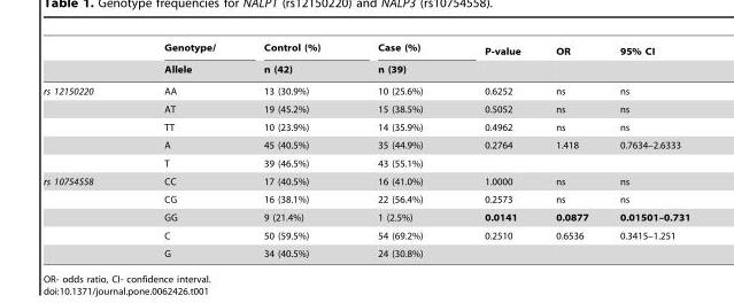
<table><thead><tr><td rowspan="2"></td><td rowspan="2">Genotype/ Allele</td><td rowspan="2">Control (%) n (42)</td><td rowspan="2">Case (%) n (39)</td><td rowspan="2">P-value</td><td rowspan="2">OR</td><td rowspan="2">95% CI</td></tr><tr></tr></thead><tbody><tr><td rowspan="5">rs 12150220</td><td>AA</td><td>13 (30.9%)</td><td>10 (25.6%)</td><td>0.6252</td><td>ns</td><td>ns</td></tr><tr><td>AT</td><td>19 (45.2%)</td><td>15 (38.5%)</td><td>0.5052</td><td>ns</td><td>ns</td></tr><tr><td>TT</td><td>10 (23.9%)</td><td>14 (35.9%)</td><td>0.4962</td><td>ns</td><td>ns</td></tr><tr><td>A</td><td>45 (40.5%)</td><td>35 (44.9%)</td><td>0.2764</td><td>1.418</td><td>0.7634–2.6333</td></tr><tr><td>T</td><td>39 (46.5%)</td><td>43 (55.1%)</td><td></td><td></td><td></td></tr><tr><td rowspan="5">rs 10754558</td><td>CC</td><td>17 (40.5%)</td><td>16 (41.0%)</td><td>1.0000</td><td>ns</td><td>ns</td></tr><tr><td>CG</td><td>16 (38.1%)</td><td>22 (56.4%)</td><td>0.2573</td><td>ns</td><td>ns</td></tr><tr><td>GG</td><td>9 (21.4%)</td><td>1 (2.5%)</td><td>0.0141</td><td>0.0877</td><td>0.01501–0.731</td></tr><tr><td>C</td><td>50 (59.5%)</td><td>54 (69.2%)</td><td>0.2510</td><td>0.6536</td><td>0.3415–1.251</td></tr><tr><td>G</td><td>34 (40.5%)</td><td>24 (30.8%)</td><td></td><td></td><td></td></tr></tbody></table>